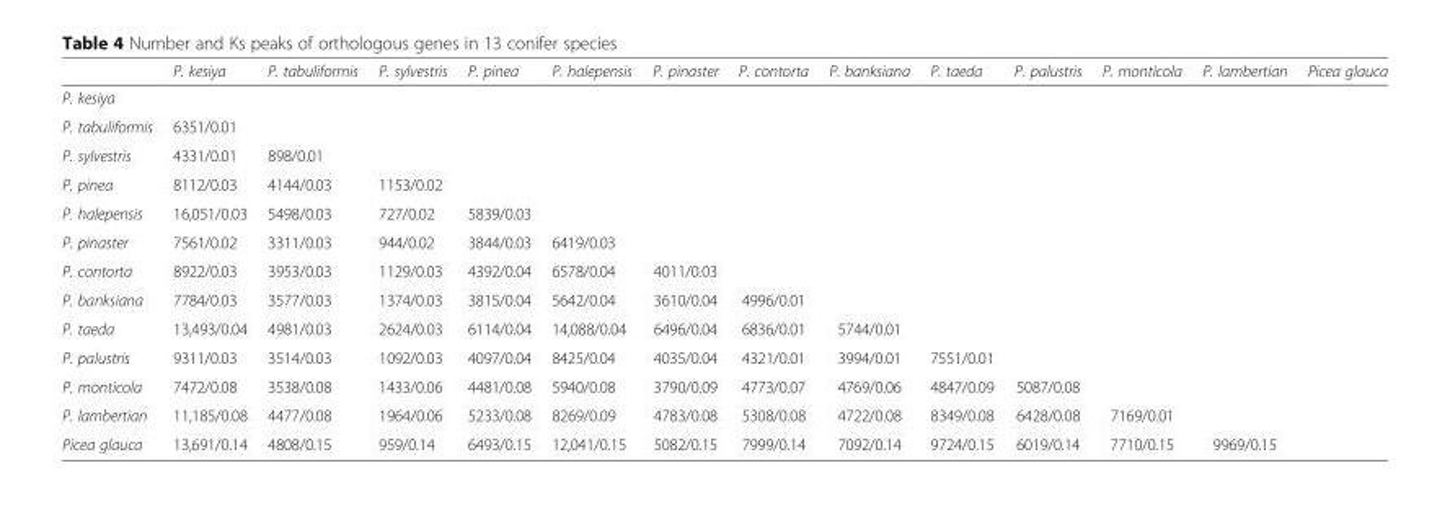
<table><thead><tr><td></td><td>P. kesiya</td><td>P. tabuliformis</td><td>P. sylvestris</td><td>P. pinea</td><td>P. halepensis</td><td>P. pinaster</td><td>P. contorta</td><td>P. banksiana</td><td>P. taeda</td><td>P. palustris</td><td>P. monticola</td><td>P. lambertian</td><td>Picea glauca</td></tr></thead><tbody><tr><td colspan="14">P. kesiya</td></tr><tr><td>P. tabuliformis</td><td>6351/0.01</td><td></td><td></td><td></td><td></td><td></td><td></td><td></td><td></td><td></td><td></td><td></td><td></td></tr><tr><td>P. sylvestris</td><td>4331/0.01</td><td>898/0.01</td><td></td><td></td><td></td><td></td><td></td><td></td><td></td><td></td><td></td><td></td><td></td></tr><tr><td>P. pinea</td><td>8112/0.03</td><td>4144/0.03</td><td>1153/0.02</td><td></td><td></td><td></td><td></td><td></td><td></td><td></td><td></td><td></td><td></td></tr><tr><td>P. halepensis</td><td>16,051/0.03</td><td>5498/0.03</td><td>727/0.02</td><td>5839/0.03</td><td></td><td></td><td></td><td></td><td></td><td></td><td></td><td></td><td></td></tr><tr><td>P. pinaster</td><td>7561/0.02</td><td>3311/0.03</td><td>944/0.02</td><td>3844/0.03</td><td>6419/0.03</td><td></td><td></td><td></td><td></td><td></td><td></td><td></td><td></td></tr><tr><td>P. contorta</td><td>8922/0.03</td><td>3953/0.03</td><td>1129/0.03</td><td>4392/0.04</td><td>6578/0.04</td><td>4011/0.03</td><td></td><td></td><td></td><td></td><td></td><td></td><td></td></tr><tr><td>P. banksiana</td><td>7784/0.03</td><td>3577/0.03</td><td>1374/0.03</td><td>3815/0.04</td><td>5642/0.04</td><td>3610/0.04</td><td>4996/0.01</td><td></td><td></td><td></td><td></td><td></td><td></td></tr><tr><td>P. taeda</td><td>13,493/0.04</td><td>4981/0.03</td><td>2624/0.03</td><td>6114/0.04</td><td>14,088/0.04</td><td>6496/0.04</td><td>6836/0.01</td><td>5744/0.01</td><td></td><td></td><td></td><td></td><td></td></tr><tr><td>P. palustris</td><td>9311/0.03</td><td>3514/0.03</td><td>1092/0.03</td><td>4097/0.04</td><td>8425/0.04</td><td>4035/0.04</td><td>4321/0.01</td><td>3994/0.01</td><td>7551/0.01</td><td></td><td></td><td></td><td></td></tr><tr><td>P. monticola</td><td>7472/0.08</td><td>3538/0.08</td><td>1433/0.06</td><td>4481/0.08</td><td>5940/0.08</td><td>3790/0.09</td><td>4773/0.07</td><td>4769/0.06</td><td>4847/0.09</td><td>5087/0.08</td><td></td><td></td><td></td></tr><tr><td>P. lambertian</td><td>11,185/0.08</td><td>4477/0.08</td><td>1964/0.06</td><td>5233/0.08</td><td>8269/0.09</td><td>4783/0.08</td><td>5308/0.08</td><td>4722/0.08</td><td>8349/0.08</td><td>6428/0.08</td><td>7169/0.01</td><td></td><td></td></tr><tr><td>Picea glauca</td><td>13,691/0.14</td><td>4808/0.15</td><td>959/0.14</td><td>6493/0.15</td><td>12,041/0.15</td><td>5082/0.15</td><td>7999/0.14</td><td>7092/0.14</td><td>9724/0.15</td><td>6019/0.14</td><td>7710/0.15</td><td>9969/0.15</td><td></td></tr></tbody></table>